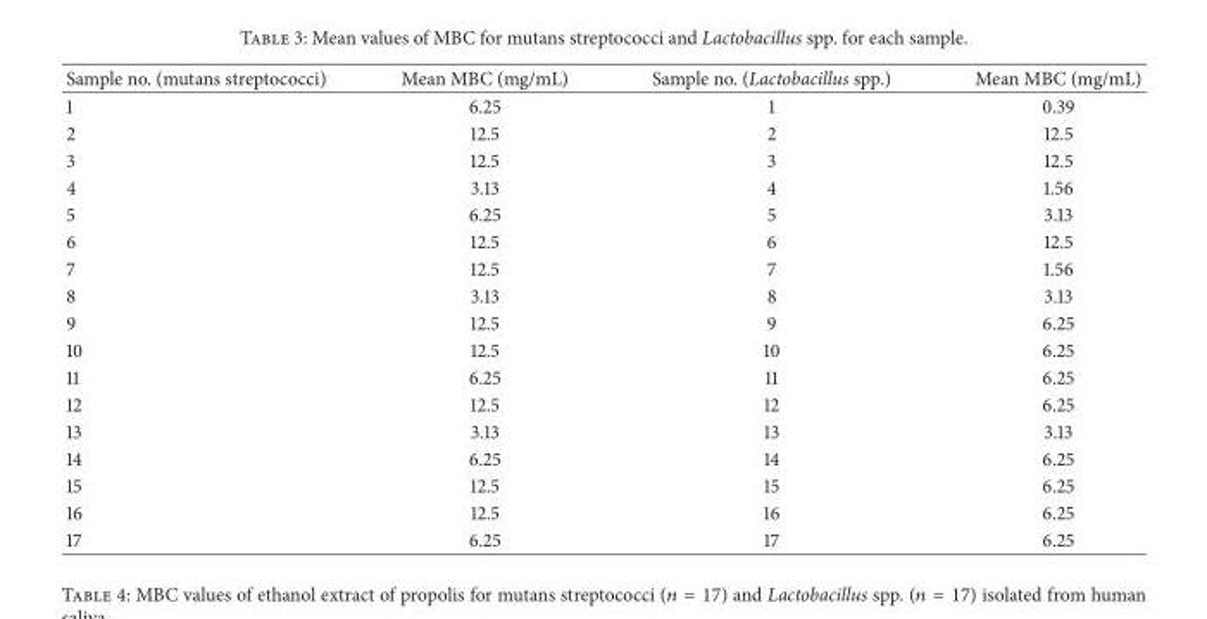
<table><thead><tr><td>Sample no. (mutans streptococci)</td><td>Mean MBC (mg/mL)</td><td>Sample no. (Lactobacillus spp.)</td><td>Mean MBC (mg/mL)</td></tr></thead><tbody><tr><td>1</td><td>6.25</td><td>1</td><td>0.39</td></tr><tr><td>2</td><td>12.5</td><td>2</td><td>12.5</td></tr><tr><td>3</td><td>12.5</td><td>3</td><td>12.5</td></tr><tr><td>4</td><td>3.13</td><td>4</td><td>1.56</td></tr><tr><td>5</td><td>6.25</td><td>5</td><td>3.13</td></tr><tr><td>6</td><td>12.5</td><td>6</td><td>12.5</td></tr><tr><td>7</td><td>12.5</td><td>7</td><td>1.56</td></tr><tr><td>8</td><td>3.13</td><td>8</td><td>3.13</td></tr><tr><td>9</td><td>12.5</td><td>9</td><td>6.25</td></tr><tr><td>10</td><td>12.5</td><td>10</td><td>6.25</td></tr><tr><td>11</td><td>6.25</td><td>11</td><td>6.25</td></tr><tr><td>12</td><td>12.5</td><td>12</td><td>6.25</td></tr><tr><td>13</td><td>3.13</td><td>13</td><td>3.13</td></tr><tr><td>14</td><td>6.25</td><td>14</td><td>6.25</td></tr><tr><td>15</td><td>12.5</td><td>15</td><td>6.25</td></tr><tr><td>16</td><td>12.5</td><td>16</td><td>6.25</td></tr><tr><td>17</td><td>6.25</td><td>17</td><td>6.25</td></tr></tbody></table>